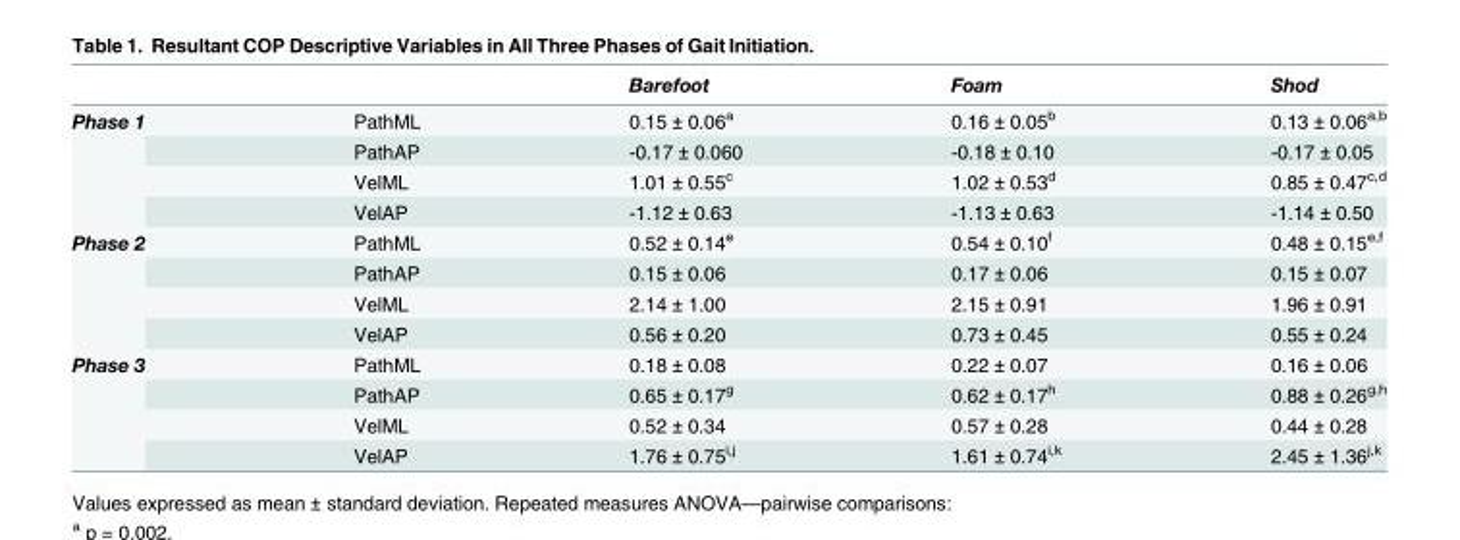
<table><thead><tr><td></td><td></td><td>Barefoot</td><td>Foam</td><td>Shod</td></tr></thead><tbody><tr><td rowspan="4">Phase 1</td><td>PathML</td><td>0.15 ± 0.06<sup>a</sup></td><td>0.16 ± 0.05<sup>b</sup></td><td>0.13 ± 0.06<sup>a,b</sup></td></tr><tr><td>PathAP</td><td>-0.17 ± 0.060</td><td>-0.18 ± 0.10</td><td>-0.17 ± 0.05</td></tr><tr><td>VelML</td><td>1.01 ± 0.55<sup>c</sup></td><td>1.02 ± 0.53<sup>d</sup></td><td>0.85 ± 0.47<sup>c,d</sup></td></tr><tr><td>VelAP</td><td>-1.12 ± 0.63</td><td>-1.13 ± 0.63</td><td>-1.14 ± 0.50</td></tr><tr><td rowspan="4">Phase 2</td><td>PathML</td><td>0.52 ± 0.14<sup>e</sup></td><td>0.54 ± 0.10<sup>f</sup></td><td>0.48 ± 0.15<sup>e,f</sup></td></tr><tr><td>PathAP</td><td>0.15 ± 0.06</td><td>0.17 ± 0.06</td><td>0.15 ± 0.07</td></tr><tr><td>VelML</td><td>2.14 ± 1.00</td><td>2.15 ± 0.91</td><td>1.96 ± 0.91</td></tr><tr><td>VelAP</td><td>0.56 ± 0.20</td><td>0.73 ± 0.45</td><td>0.55 ± 0.24</td></tr><tr><td rowspan="4">Phase 3</td><td>PathML</td><td>0.18 ± 0.08</td><td>0.22 ± 0.07</td><td>0.16 ± 0.06</td></tr><tr><td>PathAP</td><td>0.65 ± 0.17<sup>g</sup></td><td>0.62 ± 0.17<sup>h</sup></td><td>0.88 ± 0.26<sup>g,h</sup></td></tr><tr><td>VelML</td><td>0.52 ± 0.34</td><td>0.57 ± 0.28</td><td>0.44 ± 0.28</td></tr><tr><td>VelAP</td><td>1.76 ± 0.75<sup>i,j</sup></td><td>1.61 ± 0.74<sup>i,k</sup></td><td>2.45 ± 1.36<sup>j,k</sup></td></tr></tbody></table>